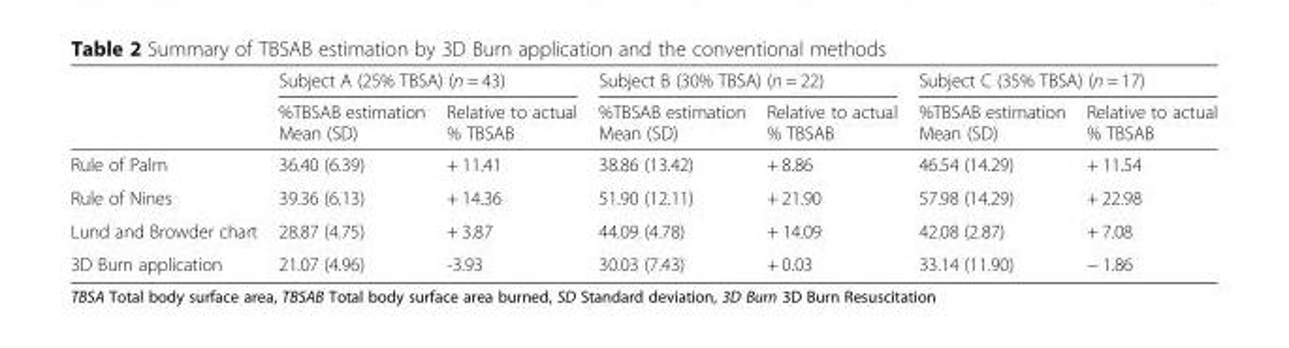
<table><thead><tr><td rowspan="2"></td><td colspan="2">Subject A (25% TBSA) (n = 43)</td><td colspan="2">Subject B (30% TBSA) (n = 22)</td><td colspan="2">Subject C (35% TBSA) (n = 17)</td></tr><tr><td>%TBSAB estimation Mean (SD)</td><td>Relative to actual % TBSAB</td><td>%TBSAB estimation Mean (SD)</td><td>Relative to actual % TBSAB</td><td>%TBSAB estimation Mean (SD)</td><td>Relative to actual % TBSAB</td></tr></thead><tbody><tr><td>Rule of Palm</td><td>36.40 (6.39)</td><td>+ 11.41</td><td>38.86 (13.42)</td><td>+ 8.86</td><td>46.54 (14.29)</td><td>+ 11.54</td></tr><tr><td>Rule of Nines</td><td>39.36 (6.13)</td><td>+ 14.36</td><td>51.90 (12.11)</td><td>+ 21.90</td><td>57.98 (14.29)</td><td>+ 22.98</td></tr><tr><td>Lund and Browder chart</td><td>28.87 (4.75)</td><td>+ 3.87</td><td>44.09 (4.78)</td><td>+ 14.09</td><td>42.08 (2.87)</td><td>+ 7.08</td></tr><tr><td>3D Burn application</td><td>21.07 (4.96)</td><td>-3.93</td><td>30.03 (7.43)</td><td>+ 0.03</td><td>33.14 (11.90)</td><td>− 1.86</td></tr></tbody></table>